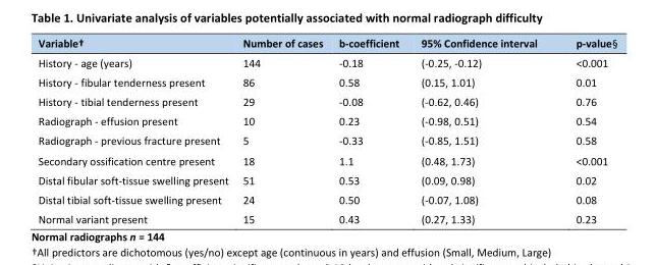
<table><thead><tr><td>Variable†</td><td>Number of cases</td><td>b-coefficient</td><td>95% Confidence interval</td><td>p-value§</td></tr></thead><tbody><tr><td>History - age (years)</td><td>144</td><td>-0.18</td><td>(-0.25, -0.12)</td><td>&lt;0.001</td></tr><tr><td>History - fibular tenderness present</td><td>86</td><td>0.58</td><td>(0.15, 1.01)</td><td>0.01</td></tr><tr><td>History - tibial tenderness present</td><td>29</td><td>-0.08</td><td>(-0.62, 0.46)</td><td>0.76</td></tr><tr><td>Radiograph - effusion present</td><td>10</td><td>0.23</td><td>(-0.98, 0.51)</td><td>0.54</td></tr><tr><td>Radiograph - previous fracture present</td><td>5</td><td>-0.33</td><td>(-0.85, 1.51)</td><td>0.58</td></tr><tr><td>Secondary ossification centre present</td><td>18</td><td>1.1</td><td>(0.48, 1.73)</td><td>&lt;0.001</td></tr><tr><td>Distal fibular soft-tissue swelling present</td><td>51</td><td>0.53</td><td>(0.09, 0.98)</td><td>0.02</td></tr><tr><td>Distal tibial soft-tissue swelling present</td><td>24</td><td>0.50</td><td>(-0.07, 1.08)</td><td>0.08</td></tr><tr><td>Normal variant present</td><td>15</td><td>0.43</td><td>(0.27, 1.33)</td><td>0.23</td></tr></tbody></table>